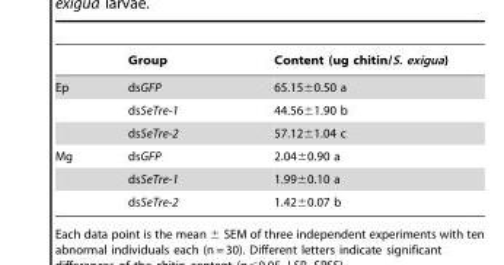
<table><thead><tr><td></td><td>Group</td><td>Content (ug chitin/S. exigua)</td></tr></thead><tbody><tr><td rowspan="3">Ep</td><td>dsGFP</td><td>65.15±0.50 a</td></tr><tr><td>dsSeTre-1</td><td>44.56±1.90 b</td></tr><tr><td>dsSeTre-2</td><td>57.12±1.04 c</td></tr><tr><td rowspan="3">Mg</td><td>dsGFP</td><td>2.04±0.90 a</td></tr><tr><td>dsSeTre-1</td><td>1.99±0.10 a</td></tr><tr><td>dsSeTre-2</td><td>1.42±0.07 b</td></tr></tbody></table>